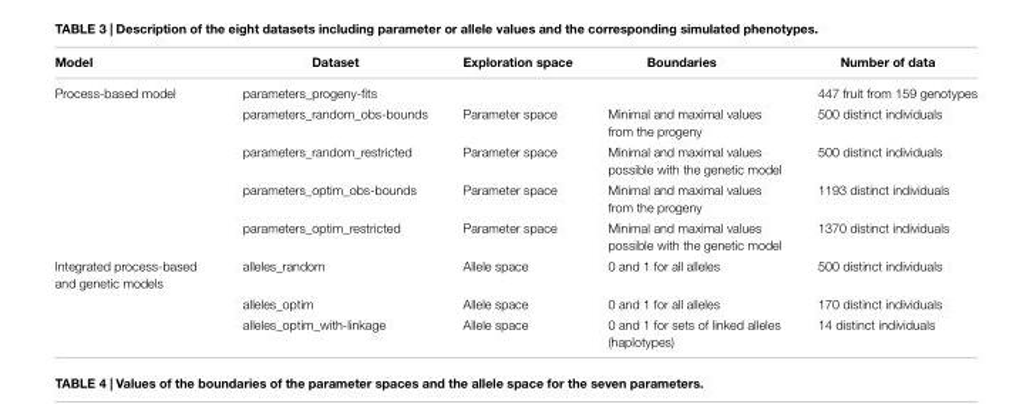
<table><thead><tr><td>Model</td><td>Dataset</td><td>Exploration space</td><td>Boundaries</td><td>Number of data</td></tr></thead><tbody><tr><td rowspan="5">Process-based model</td><td>parameters_progeny-fits</td><td></td><td></td><td>447 fruit from 159 genotypes</td></tr><tr><td>parameters_random_obs-bounds</td><td>Parameter space</td><td>Minimal and maximal values from the progeny</td><td>500 distinct individuals</td></tr><tr><td>parameters_random_restricted</td><td>Parameter space</td><td>Minimal and maximal values possible with the genetic model</td><td>500 distinct individuals</td></tr><tr><td>parameters_optim_obs-bounds</td><td>Parameter space</td><td>Minimal and maximal values from the progeny</td><td>1193 distinct individuals</td></tr><tr><td>parameters_optim_restricted</td><td>Parameter space</td><td>Minimal and maximal values possible with the genetic model</td><td>1370 distinct individuals</td></tr><tr><td rowspan="3">Integrated process-based and genetic models</td><td>alleles_random</td><td>Allele space</td><td>0 and 1 for all alleles</td><td>500 distinct individuals</td></tr><tr><td>alleles_optim</td><td>Allele space</td><td>0 and 1 for all alleles</td><td>170 distinct individuals</td></tr><tr><td>alleles_optim_with-linkage</td><td>Allele space</td><td>0 and 1 for sets of linked alleles (haplotypes)</td><td>14 distinct individuals</td></tr></tbody></table>